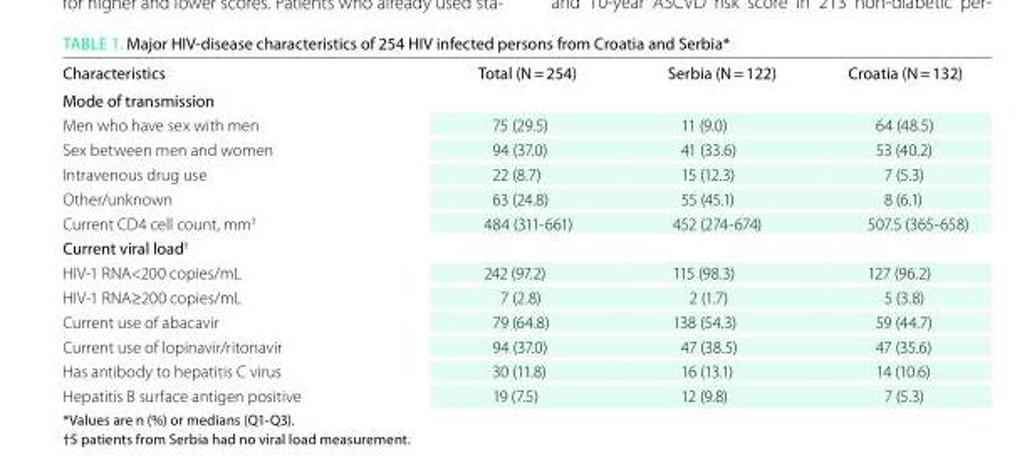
<table><thead><tr><td>Characteristics</td><td>total (N = 254)</td><td>serbia (N = 122)</td><td>Croatia (N = 132)</td></tr></thead><tbody><tr><td colspan="4">Mode of transmission</td></tr><tr><td>Men who have sex with men</td><td>75 (29.5)</td><td>11 (9.0)</td><td>64 (48.5)</td></tr><tr><td>Sex between men and women</td><td>94 (37.0)</td><td>41 (33.6)</td><td>53 (40.2)</td></tr><tr><td>Intravenous drug use</td><td>22 (8.7)</td><td>15 (12.3)</td><td>7 (5.3)</td></tr><tr><td>Other/unknown</td><td>63 (24.8)</td><td>55 (45.1)</td><td>8 (6.1)</td></tr><tr><td>Current CD4 cell count, mm<sup>3</sup></td><td>484 (311-661)</td><td>452 (274-674)</td><td>507.5 (365-658)</td></tr><tr><td colspan="4">Current viral load<sup>†</sup></td></tr><tr><td>HIV-1 RNA&lt;200 copies/mL</td><td>242 (97.2)</td><td>115 (98.3)</td><td>127 (96.2)</td></tr><tr><td>HIV-1 RNA≥200 copies/mL</td><td>7 (2.8)</td><td>2 (1.7)</td><td>5 (3.8)</td></tr><tr><td>Current use of abacavir</td><td>79 (64.8)</td><td>138 (54.3)</td><td>59 (44.7)</td></tr><tr><td>Current use of lopinavir/ritonavir</td><td>94 (37.0)</td><td>47 (38.5)</td><td>47 (35.6)</td></tr><tr><td>Has antibody to hepatitis C virus</td><td>30 (11.8)</td><td>16 (13.1)</td><td>14 (10.6)</td></tr><tr><td>Hepatitis B surface antigen positive</td><td>19 (7.5)</td><td>12 (9.8)</td><td>7 (5.3)</td></tr></tbody></table>